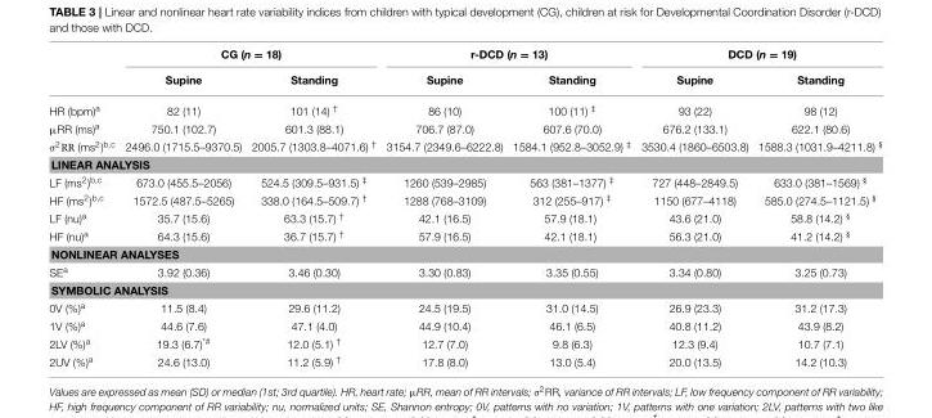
<table><thead><tr><td rowspan="2"></td><td colspan="2">CG (n = 18)</td><td colspan="2">r-DCD (n = 13)</td><td colspan="2">DCD (n = 19)</td></tr><tr><td>Supine</td><td>Standing</td><td>Supine</td><td>Standing</td><td>Supine</td><td>Standing</td></tr></thead><tbody><tr><td>HR (bpm)<sup>a</sup></td><td>82 (11)</td><td>101 (14) <sup>†</sup></td><td>86 (10)</td><td>100 (11) <sup>‡</sup></td><td>93 (22)</td><td>98 (12)</td></tr><tr><td>µRR (ms)<sup>a</sup></td><td>750.1 (102.7)</td><td>601.3 (88.1)</td><td>706.7 (87.0)</td><td>607.6 (70.0)</td><td>676.2 (133.1)</td><td>622.1 (80.6)</td></tr><tr><td>σ<sup>2</sup>RR (ms<sup>2</sup>)<sup>b,c</sup></td><td>2496.0 (1715.5–9370.5)</td><td>2005.7 (1303.8–4071.6) <sup>†</sup></td><td>3154.7 (2349.6–6222.8)</td><td>1584.1 (952.8–3052.9) <sup>‡</sup></td><td>3530.4 (1860–6503.8)</td><td>1588.3 (1031.9–4211.8) <sup>§</sup></td></tr><tr><td colspan="7">LINEAR ANALYSIS</td></tr><tr><td>LF (ms<sup>2</sup>)<sup>b,c</sup></td><td>673.0 (455.5–2056)</td><td>524.5 (309.5–931.5) <sup>‡</sup></td><td>1260 (539–2985)</td><td>563 (381–1377) <sup>‡</sup></td><td>727 (448–2849.5)</td><td>633.0 (381–1569) <sup>§</sup></td></tr><tr><td>HF (ms<sup>2</sup>)<sup>b,c</sup></td><td>1572.5 (487.5–5265)</td><td>338.0 (164.5–509.7) <sup>†</sup></td><td>1288 (768–3109)</td><td>312 (255–917) <sup>‡</sup></td><td>1150 (677–4118)</td><td>585.0 (274.5–1121.5) <sup>§</sup></td></tr><tr><td>LF (nu)<sup>a</sup></td><td>35.7 (15.6)</td><td>63.3 (15.7) <sup>†</sup></td><td>42.1 (16.5)</td><td>57.9 (18.1)</td><td>43.6 (21.0)</td><td>58.8 (14.2) <sup>§</sup></td></tr><tr><td>HF (nu)<sup>a</sup></td><td>64.3 (15.6)</td><td>36.7 (15.7) <sup>†</sup></td><td>57.9 (16.5)</td><td>42.1 (18.1)</td><td>56.3 (21.0)</td><td>41.2 (14.2) <sup>§</sup></td></tr><tr><td colspan="7">NONLINEAR ANALYSES</td></tr><tr><td>SE<sup>a</sup></td><td>3.92 (0.36)</td><td>3.46 (0.30)</td><td>3.30 (0.83)</td><td>3.35 (0.55)</td><td>3.34 (0.80)</td><td>3.25 (0.73)</td></tr><tr><td colspan="7">SYMBOLIC ANALYSIS</td></tr><tr><td>0V (%)<sup>a</sup></td><td>11.5 (8.4)</td><td>29.6 (11.2)</td><td>24.5 (19.5)</td><td>31.0 (14.5)</td><td>26.9 (23.3)</td><td>31.2 (17.3)</td></tr><tr><td>1V (%)<sup>a</sup></td><td>44.6 (7.6)</td><td>47.1 (4.0)</td><td>44.9 (10.4)</td><td>46.1 (6.5)</td><td>40.8 (11.2)</td><td>43.9 (8.2)</td></tr><tr><td>2LV (%)<sup>a</sup></td><td>19.3 (6.7)<sup>*#</sup></td><td>12.0 (5.1) <sup>†</sup></td><td>12.7 (7.0)</td><td>9.8 (6.3)</td><td>12.3 (9.4)</td><td>10.7 (7.1)</td></tr><tr><td>2UV (%)<sup>a</sup></td><td>24.6 (13.0)</td><td>11.2 (5.9) <sup>†</sup></td><td>17.8 (8.0)</td><td>13.0 (5.4)</td><td>20.0 (13.5)</td><td>14.2 (10.3)</td></tr></tbody></table>